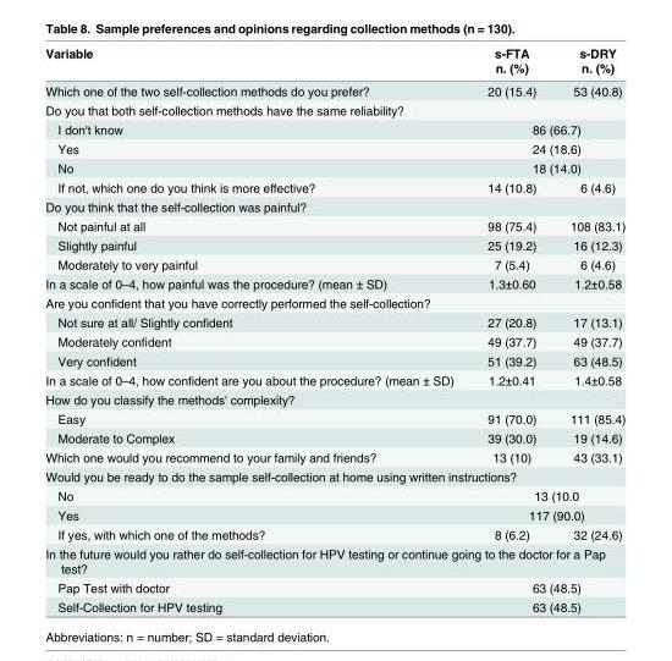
<table><thead><tr><td rowspan="2">Variable</td><td rowspan="2">s-FTA n. (%)</td><td rowspan="2">s-DRY n. (%)</td></tr><tr></tr></thead><tbody><tr><td>Which one of the two self-collection methods do you prefer?</td><td>20 (15.4)</td><td>53 (40.8)</td></tr><tr><td colspan="3">Do you that both self-collection methods have the same reliability?</td></tr><tr><td>I don&#x27;t know</td><td colspan="2">86 (66.7)</td></tr><tr><td>Yes</td><td colspan="2">24 (18.6)</td></tr><tr><td>No</td><td colspan="2">18 (14.0)</td></tr><tr><td>If not, which one do you think is more effective?</td><td>14 (10.8)</td><td>6 (4.6)</td></tr><tr><td colspan="3">Do you think that the self-collection was painful?</td></tr><tr><td>Not painful at all</td><td>98 (75.4)</td><td>108 (83.1)</td></tr><tr><td>Slightly painful</td><td>25 (19.2)</td><td>16 (12.3)</td></tr><tr><td>Moderately to very painful</td><td>7 (5.4)</td><td>6 (4.6)</td></tr><tr><td>In a scale of 0–4, how painful was the procedure? (mean ± SD)</td><td>1.3±0.60</td><td>1.2±0.58</td></tr><tr><td colspan="3">Are you confident that you have correctly performed the self-collection?</td></tr><tr><td>Not sure at all/ Slightly confident</td><td>27 (20.8)</td><td>17 (13.1)</td></tr><tr><td>Moderately confident</td><td>49 (37.7)</td><td>49 (37.7)</td></tr><tr><td>Very confident</td><td>51 (39.2)</td><td>63 (48.5)</td></tr><tr><td>In a scale of 0–4, how confident are you about the procedure? (mean ± SD)</td><td>1.2±0.41</td><td>1.4±0.58</td></tr><tr><td colspan="3">How do you classify the methods&#x27; complexity?</td></tr><tr><td>Easy</td><td>91 (70.0)</td><td>111 (85.4)</td></tr><tr><td>Moderate to Complex</td><td>39 (30.0)</td><td>19 (14.6)</td></tr><tr><td>Which one would you recommend to your family and friends?</td><td>13 (10)</td><td>43 (33.1)</td></tr><tr><td colspan="3">Would you be ready to do the sample self-collection at home using written instructions?</td></tr><tr><td>No</td><td colspan="2">13 (10.0</td></tr><tr><td>Yes</td><td colspan="2">117 (90.0)</td></tr><tr><td>If yes, with which one of the methods?</td><td>8 (6.2)</td><td>32 (24.6)</td></tr><tr><td colspan="3">In the future would you rather do self-collection for HPV testing or continue going to the doctor for a Pap test?</td></tr><tr><td>Pap Test with doctor</td><td colspan="2">63 (48.5)</td></tr><tr><td>Self-Collection for HPV testing</td><td colspan="2">63 (48.5)</td></tr></tbody></table>